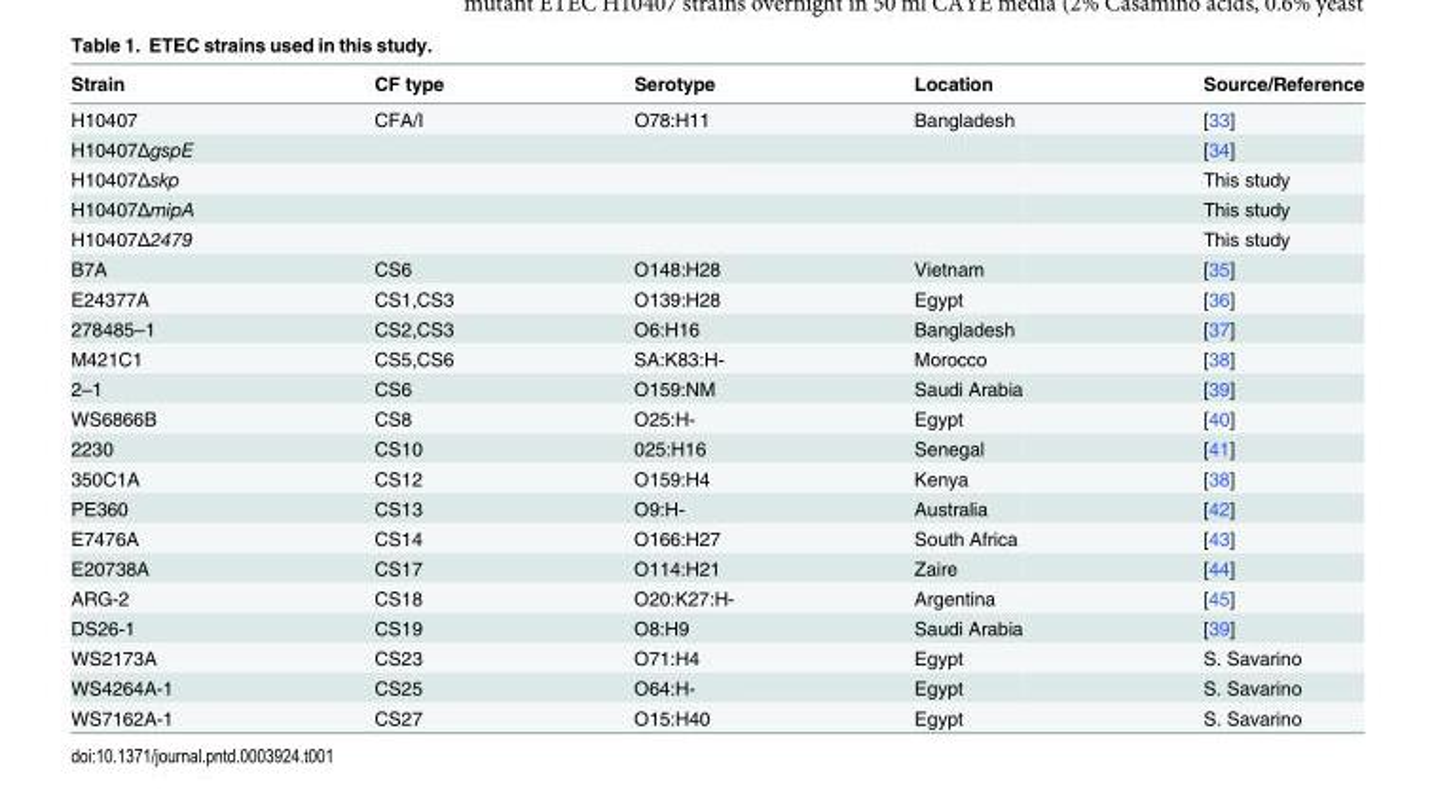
<table><thead><tr><td>Strain</td><td>CF type</td><td>Serotype</td><td>Location</td><td>Source/Reference</td></tr></thead><tbody><tr><td>H10407</td><td>CFA/I</td><td>O78:H11</td><td>Bangladesh</td><td>[33]</td></tr><tr><td>H10407ΔgspE</td><td></td><td></td><td></td><td>[34]</td></tr><tr><td>H10407Δskp</td><td></td><td></td><td></td><td>This study</td></tr><tr><td>H10407ΔmipA</td><td></td><td></td><td></td><td>This study</td></tr><tr><td>H10407Δ2479</td><td></td><td></td><td></td><td>This study</td></tr><tr><td>B7A</td><td>CS6</td><td>O148:H28</td><td>Vietnam</td><td>[35]</td></tr><tr><td>E24377A</td><td>CS1,CS3</td><td>O139:H28</td><td>Egypt</td><td>[36]</td></tr><tr><td>278485–1</td><td>CS2,CS3</td><td>O6:H16</td><td>Bangladesh</td><td>[37]</td></tr><tr><td>M421C1</td><td>CS5,CS6</td><td>SA:K83:H-</td><td>Morocco</td><td>[38]</td></tr><tr><td>2–1</td><td>CS6</td><td>O159:NM</td><td>Saudi Arabia</td><td>[39]</td></tr><tr><td>WS6866B</td><td>CS8</td><td>O25:H-</td><td>Egypt</td><td>[40]</td></tr><tr><td>2230</td><td>CS10</td><td>025:H16</td><td>Senegal</td><td>[41]</td></tr><tr><td>350C1A</td><td>CS12</td><td>O159:H4</td><td>Kenya</td><td>[38]</td></tr><tr><td>PE360</td><td>CS13</td><td>O9:H-</td><td>Australia</td><td>[42]</td></tr><tr><td>E7476A</td><td>CS14</td><td>O166:H27</td><td>South Africa</td><td>[43]</td></tr><tr><td>E20738A</td><td>CS17</td><td>O114:H21</td><td>Zaire</td><td>[44]</td></tr><tr><td>ARG-2</td><td>CS18</td><td>O20:K27:H-</td><td>Argentina</td><td>[45]</td></tr><tr><td>DS26-1</td><td>CS19</td><td>O8:H9</td><td>Saudi Arabia</td><td>[39]</td></tr><tr><td>WS2173A</td><td>CS23</td><td>O71:H4</td><td>Egypt</td><td>S. Savarino</td></tr><tr><td>WS4264A-1</td><td>CS25</td><td>O64:H-</td><td>Egypt</td><td>S. Savarino</td></tr><tr><td>WS7162A-1</td><td>CS27</td><td>O15:H40</td><td>Egypt</td><td>S. Savarino</td></tr></tbody></table>